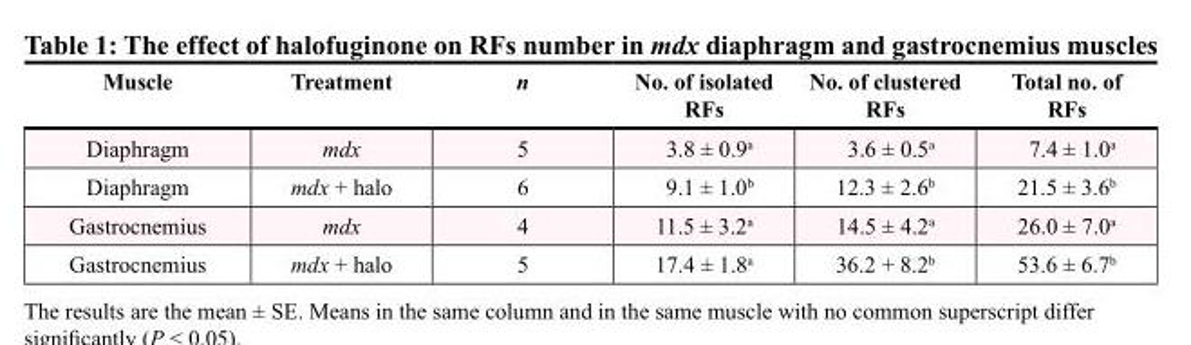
<table><thead><tr><td>Muscle</td><td>Treatment</td><td>n</td><td>No. of isolated RFs</td><td>No. of clustered RFs</td><td>Total no. of RFs</td></tr></thead><tbody><tr><td>Diaphragm</td><td>mdx</td><td>5</td><td>3.8 ± 0.9<sup>a</sup></td><td>3.6 ± 0.5<sup>a</sup></td><td>7.4 ± 1.0<sup>a</sup></td></tr><tr><td>Diaphragm</td><td>mdx + halo</td><td>6</td><td>9.1 ± 1.0<sup>b</sup></td><td>12.3 ± 2.6<sup>b</sup></td><td>21.5 ± 3.6<sup>b</sup></td></tr><tr><td>Gastrocnemius</td><td>mdx</td><td>4</td><td>11.5 ± 3.2<sup>a</sup></td><td>14.5 ± 4.2<sup>a</sup></td><td>26.0 ± 7.0<sup>a</sup></td></tr><tr><td>Gastrocnemius</td><td>mdx + halo</td><td>5</td><td>17.4 ± 1.8<sup>a</sup></td><td>36.2 + 8.2<sup>b</sup></td><td>53.6 ± 6.7<sup>b</sup></td></tr></tbody></table>